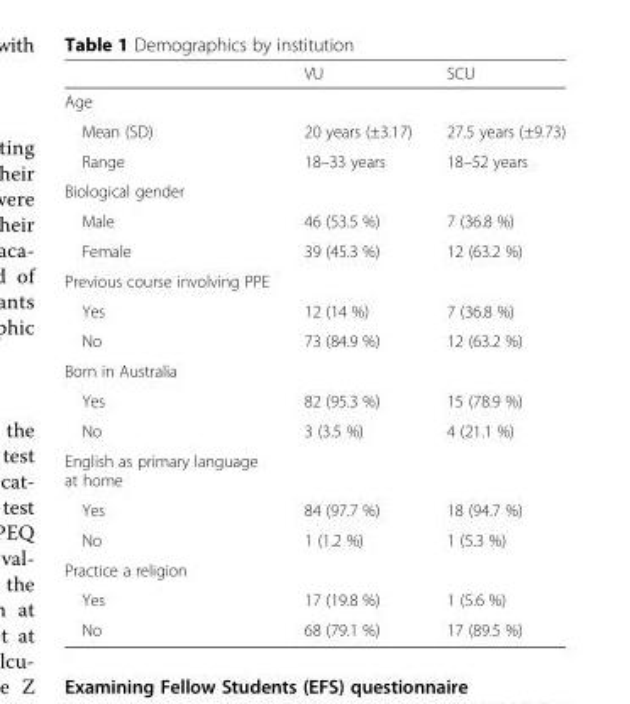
<table><thead><tr><td></td><td>VU</td><td>SCU</td></tr></thead><tbody><tr><td colspan="3">Age</td></tr><tr><td>Mean (SD)</td><td>20 years (±3.17)</td><td>27.5 years (±9.73)</td></tr><tr><td>Range</td><td>18–33 years</td><td>18–52 years</td></tr><tr><td colspan="3">Biological gender</td></tr><tr><td>Male</td><td>46 (53.5 %)</td><td>7 (36.8 %)</td></tr><tr><td>Female</td><td>39 (45.3 %)</td><td>12 (63.2 %)</td></tr><tr><td colspan="3">Previous course involving PPE</td></tr><tr><td>Yes</td><td>12 (14 %)</td><td>7 (36.8 %)</td></tr><tr><td>No</td><td>73 (84.9 %)</td><td>12 (63.2 %)</td></tr><tr><td colspan="3">Born in Australia</td></tr><tr><td>Yes</td><td>82 (95.3 %)</td><td>15 (78.9 %)</td></tr><tr><td>No</td><td>3 (3.5 %)</td><td>4 (21.1 %)</td></tr><tr><td colspan="3">English as primary language at home</td></tr><tr><td>Yes</td><td>84 (97.7 %)</td><td>18 (94.7 %)</td></tr><tr><td>No</td><td>1 (1.2 %)</td><td>1 (5.3 %)</td></tr><tr><td colspan="3">Practice a religion</td></tr><tr><td>Yes</td><td>17 (19.8 %)</td><td>1 (5.6 %)</td></tr><tr><td>No</td><td>68 (79.1 %)</td><td>17 (89.5 %)</td></tr></tbody></table>